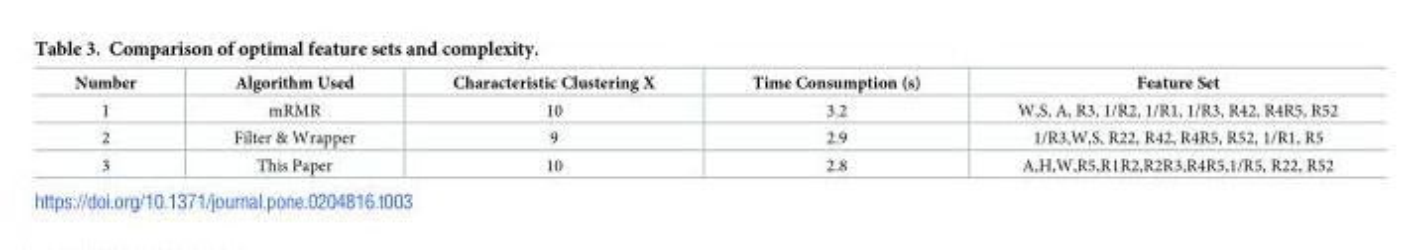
<table><thead><tr><td>Number</td><td>Algorithm Used</td><td>Characteristic Clustering X</td><td>Time Consumption (s)</td><td>Feature Set</td></tr></thead><tbody><tr><td>1</td><td>mRMR</td><td>10</td><td>3.2</td><td>W,S, A, R3, 1/R2, 1/R1, 1/R3, R42, R4R5, R52</td></tr><tr><td>2</td><td>Filter &amp; Wrapper</td><td>9</td><td>2.9</td><td>1/R3,W,S, R22, R42, R4R5, R52, 1/R1, R5</td></tr><tr><td>3</td><td>This Paper</td><td>10</td><td>2.8</td><td>A,H,W,R5,R1R2,R2R3,R4R5,1/R5, R22, R52</td></tr></tbody></table>